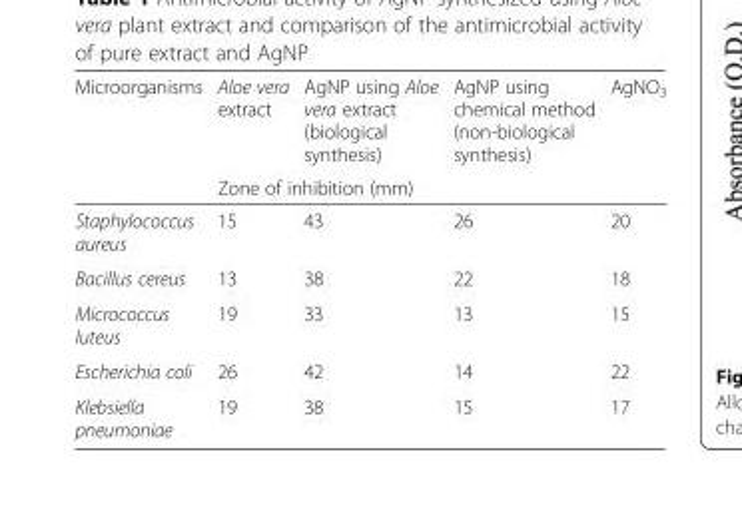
<table><thead><tr><td rowspan="2">Microorganisms</td><td>Aloe vera extract</td><td>AgNP using Aloe vera extract (biological synthesis)</td><td>AgNP using chemical method (non-biological synthesis)</td><td rowspan="2">AgNO<sub>3</sub></td></tr><tr><td colspan="3">Zone of inhibition (mm)</td></tr></thead><tbody><tr><td>Staphylococcus aureus</td><td>15</td><td>43</td><td>26</td><td>20</td></tr><tr><td>Bacillus cereus</td><td>13</td><td>38</td><td>22</td><td>18</td></tr><tr><td>Micrococcus luteus</td><td>19</td><td>33</td><td>13</td><td>15</td></tr><tr><td>Escherichia coli</td><td>26</td><td>42</td><td>14</td><td>22</td></tr><tr><td>Klebsiella pneumoniae</td><td>19</td><td>38</td><td>15</td><td>17</td></tr></tbody></table>